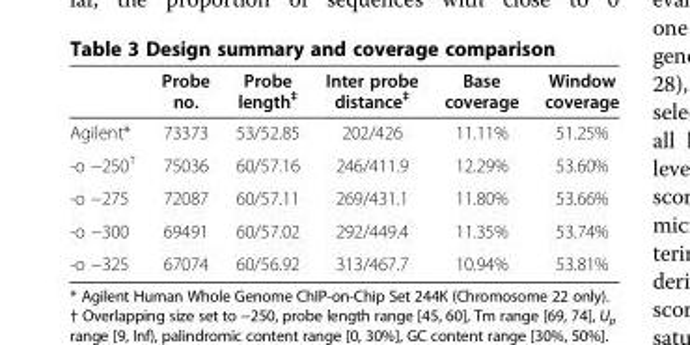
<table><thead><tr><td></td><td>Probe no.</td><td>Probe length<sup>‡</sup></td><td>Inter probe distance<sup>‡</sup></td><td>Base coverage</td><td>Window coverage</td></tr></thead><tbody><tr><td>Agilent*</td><td>73373</td><td>53/52.85</td><td>202/426</td><td>11.11%</td><td>51.25%</td></tr><tr><td>-o −250<sup>†</sup></td><td>75036</td><td>60/57.16</td><td>246/411.9</td><td>12.29%</td><td>53.60%</td></tr><tr><td>-o −275</td><td>72087</td><td>60/57.11</td><td>269/431.1</td><td>11.80%</td><td>53.66%</td></tr><tr><td>-o −300</td><td>69491</td><td>60/57.02</td><td>292/449.4</td><td>11.35%</td><td>53.74%</td></tr><tr><td>-o −325</td><td>67074</td><td>60/56.92</td><td>313/467.7</td><td>10.94%</td><td>53.81%</td></tr></tbody></table>